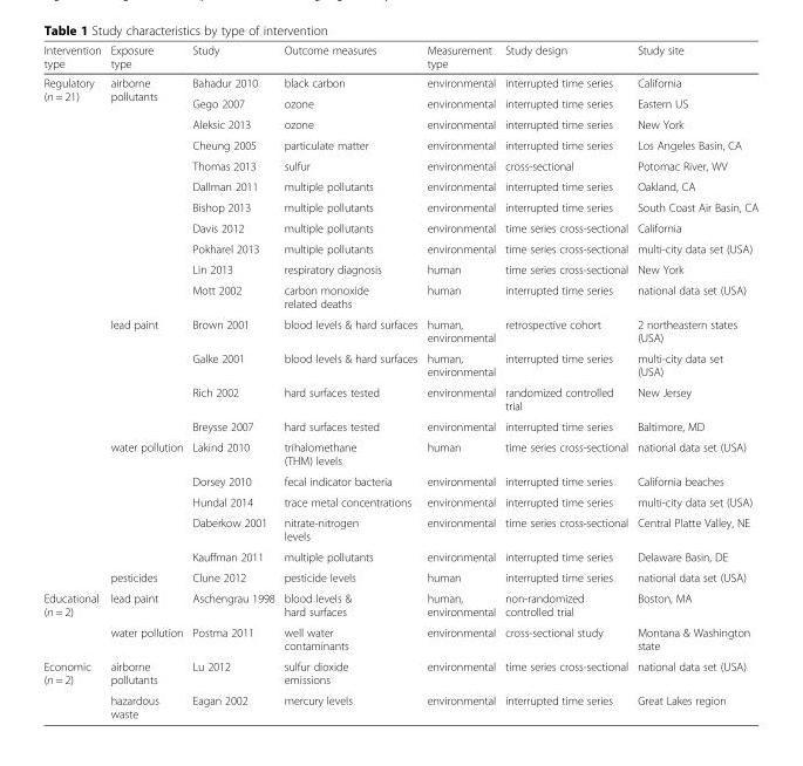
<table><thead><tr><td>Intervention type</td><td>Exposure type</td><td>Study</td><td>Outcome measures</td><td>Measurement type</td><td>Study design</td><td>Study site</td></tr></thead><tbody><tr><td rowspan="21">Regulatory (n = 21)</td><td rowspan="11">airborne pollutants</td><td>Bahadur 2010</td><td>black carbon</td><td>environmental</td><td>interrupted time series</td><td>California</td></tr><tr><td>Gego 2007</td><td>ozone</td><td>environmental</td><td>interrupted time series</td><td>Eastern US</td></tr><tr><td>Aleksic 2013</td><td>ozone</td><td>environmental</td><td>interrupted time series</td><td>New York</td></tr><tr><td>Cheung 2005</td><td>particulate matter</td><td>environmental</td><td>interrupted time series</td><td>Los Angeles Basin, CA</td></tr><tr><td>Thomas 2013</td><td>sulfur</td><td>environmental</td><td>cross-sectional</td><td>Potomac River, WV</td></tr><tr><td>Dallman 2011</td><td>multiple pollutants</td><td>environmental</td><td>interrupted time series</td><td>Oakland, CA</td></tr><tr><td>Bishop 2013</td><td>multiple pollutants</td><td>environmental</td><td>interrupted time series</td><td>South Coast Air Basin, CA</td></tr><tr><td>Davis 2012</td><td>multiple pollutants</td><td>environmental</td><td>time series cross-sectional</td><td>California</td></tr><tr><td>Pokharel 2013</td><td>multiple pollutants</td><td>environmental</td><td>time series cross-sectional</td><td>multi-city data set (USA)</td></tr><tr><td>Lin 2013</td><td>respiratory diagnosis</td><td>human</td><td>time series cross-sectional</td><td>New York</td></tr><tr><td>Mott 2002</td><td>carbon monoxide related deaths</td><td>human</td><td>interrupted time series</td><td>national data set (USA)</td></tr><tr><td rowspan="4">lead paint</td><td>Brown 2001</td><td>blood levels &amp; hard surfaces</td><td>human, environmental</td><td>retrospective cohort</td><td>2 northeastern states (USA)</td></tr><tr><td>Galke 2001</td><td>blood levels &amp; hard surfaces</td><td>human, environmental</td><td>interrupted time series</td><td>multi-city data set (USA)</td></tr><tr><td>Rich 2002</td><td>hard surfaces tested</td><td>environmental</td><td>randomized controlled trial</td><td>New Jersey</td></tr><tr><td>Breysse 2007</td><td>hard surfaces tested</td><td>environmental</td><td>interrupted time series</td><td>Baltimore, MD</td></tr><tr><td rowspan="5">water pollution</td><td>Lakind 2010</td><td>trihalomethane (THM) levels</td><td>human</td><td>time series cross-sectional</td><td>national data set (USA)</td></tr><tr><td>Dorsey 2010</td><td>fecal indicator bacteria</td><td>environmental</td><td>interrupted time series</td><td>California beaches</td></tr><tr><td>Hundal 2014</td><td>trace metal concentrations</td><td>environmental</td><td>interrupted time series</td><td>multi-city data set (USA)</td></tr><tr><td>Daberkow 2001</td><td>nitrate-nitrogen levels</td><td>environmental</td><td>time series cross-sectional</td><td>Central Platte Valley, NE</td></tr><tr><td>Kauffman 2011</td><td>multiple pollutants</td><td>environmental</td><td>interrupted time series</td><td>Delaware Basin, DE</td></tr><tr><td>pesticides</td><td>Clune 2012</td><td>pesticide levels</td><td>human</td><td>interrupted time series</td><td>national data set (USA)</td></tr><tr><td rowspan="2">Educational (n = 2)</td><td>lead paint</td><td>Aschengrau 1998</td><td>blood levels &amp; hard surfaces</td><td>human, environmental</td><td>non-randomized controlled trial</td><td>Boston, MA</td></tr><tr><td>water pollution</td><td>Postma 2011</td><td>well water contaminants</td><td>environmental</td><td>cross-sectional study</td><td>Montana &amp; Washington state</td></tr><tr><td rowspan="2">Economic (n = 2)</td><td>airborne pollutants</td><td>Lu 2012</td><td>sulfur dioxide emissions</td><td>environmental</td><td>time series cross-sectional</td><td>national data set (USA)</td></tr><tr><td>hazardous waste</td><td>Eagan 2002</td><td>mercury levels</td><td>environmental</td><td>interrupted time series</td><td>Great Lakes region</td></tr></tbody></table>